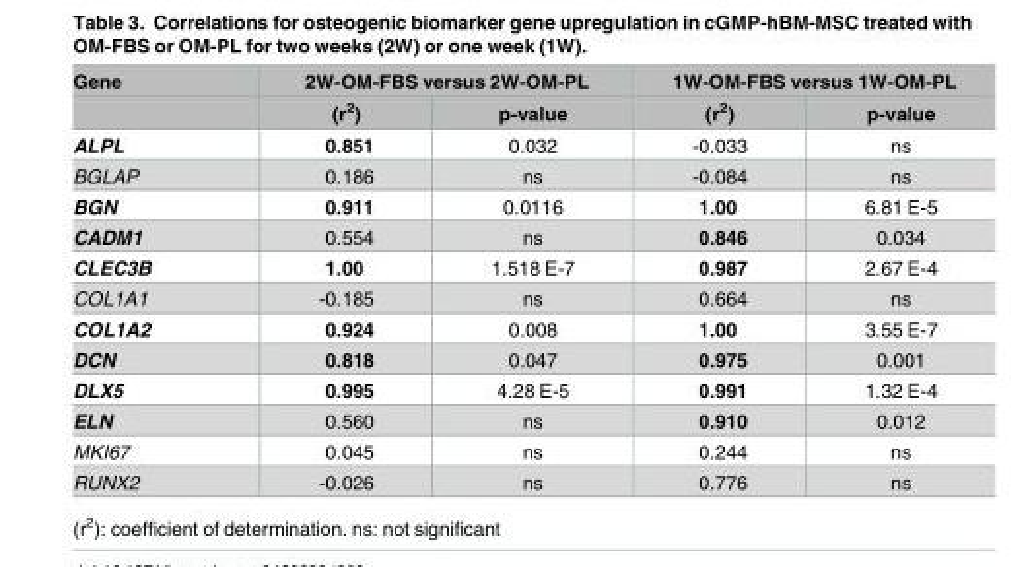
<table><thead><tr><td rowspan="2">Gene</td><td colspan="2">2W-OM-FBS versus 2W-OM-PL</td><td colspan="2">1W-OM-FBS versus 1W-OM-PL</td></tr><tr><td>(r<sup>2</sup>)</td><td>p-value</td><td>(r<sup>2</sup>)</td><td>p-value</td></tr></thead><tbody><tr><td>ALPL</td><td>0.851</td><td>0.032</td><td>-0.033</td><td>ns</td></tr><tr><td>BGLAP</td><td>0.186</td><td>ns</td><td>-0.084</td><td>ns</td></tr><tr><td>BGN</td><td>0.911</td><td>0.0116</td><td>1.00</td><td>6.81 E-5</td></tr><tr><td>CADM1</td><td>0.554</td><td>ns</td><td>0.846</td><td>0.034</td></tr><tr><td>CLEC3B</td><td>1.00</td><td>1.518 E-7</td><td>0.987</td><td>2.67 E-4</td></tr><tr><td>COL1A1</td><td>-0.185</td><td>ns</td><td>0.664</td><td>ns</td></tr><tr><td>COL1A2</td><td>0.924</td><td>0.008</td><td>1.00</td><td>3.55 E-7</td></tr><tr><td>DCN</td><td>0.818</td><td>0.047</td><td>0.975</td><td>0.001</td></tr><tr><td>DLX5</td><td>0.995</td><td>4.28 E-5</td><td>0.991</td><td>1.32 E-4</td></tr><tr><td>ELN</td><td>0.560</td><td>ns</td><td>0.910</td><td>0.012</td></tr><tr><td>MKI67</td><td>0.045</td><td>ns</td><td>0.244</td><td>ns</td></tr><tr><td>RUNX2</td><td>-0.026</td><td>ns</td><td>0.776</td><td>ns</td></tr></tbody></table>